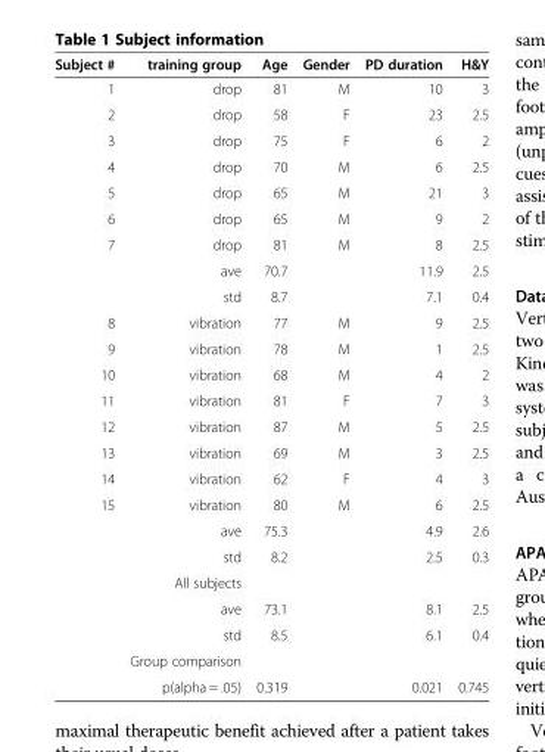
<table><thead><tr><td>Subject #</td><td>training group</td><td>Age</td><td>Gender</td><td>PD duration</td><td>H&amp;Y</td></tr></thead><tbody><tr><td>1</td><td>drop</td><td>81</td><td>M</td><td>10</td><td>3</td></tr><tr><td>2</td><td>drop</td><td>58</td><td>F</td><td>23</td><td>2.5</td></tr><tr><td>3</td><td>drop</td><td>75</td><td>F</td><td>6</td><td>2</td></tr><tr><td>4</td><td>drop</td><td>70</td><td>M</td><td>6</td><td>2.5</td></tr><tr><td>5</td><td>drop</td><td>65</td><td>M</td><td>21</td><td>3</td></tr><tr><td>6</td><td>drop</td><td>65</td><td>M</td><td>9</td><td>2</td></tr><tr><td rowspan="3">7</td><td>drop</td><td>81</td><td>M</td><td>8</td><td>2.5</td></tr><tr><td>ave</td><td>70.7</td><td></td><td>11.9</td><td>2.5</td></tr><tr><td>std</td><td>8.7</td><td></td><td>7.1</td><td>0.4</td></tr><tr><td>8</td><td>vibration</td><td>77</td><td>M</td><td>9</td><td>2.5</td></tr><tr><td>9</td><td>vibration</td><td>78</td><td>M</td><td>1</td><td>2.5</td></tr><tr><td>10</td><td>vibration</td><td>68</td><td>M</td><td>4</td><td>2</td></tr><tr><td>11</td><td>vibration</td><td>81</td><td>F</td><td>7</td><td>3</td></tr><tr><td>12</td><td>vibration</td><td>87</td><td>M</td><td>5</td><td>2.5</td></tr><tr><td>13</td><td>vibration</td><td>69</td><td>M</td><td>3</td><td>2.5</td></tr><tr><td>14</td><td>vibration</td><td>62</td><td>F</td><td>4</td><td>3</td></tr><tr><td rowspan="8">15</td><td>vibration</td><td>80</td><td>M</td><td>6</td><td>2.5</td></tr><tr><td>ave</td><td>75.3</td><td></td><td>4.9</td><td>2.6</td></tr><tr><td>std</td><td>8.2</td><td></td><td>2.5</td><td>0.3</td></tr><tr><td>All subjects</td><td></td><td></td><td></td><td></td></tr><tr><td>ave</td><td>73.1</td><td></td><td>8.1</td><td>2.5</td></tr><tr><td>std</td><td>8.5</td><td></td><td>6.1</td><td>0.4</td></tr><tr><td>Group comparison</td><td></td><td></td><td></td><td></td></tr><tr><td>p(alpha = .05)</td><td>0.319</td><td></td><td>0.021</td><td>0.745</td></tr></tbody></table>